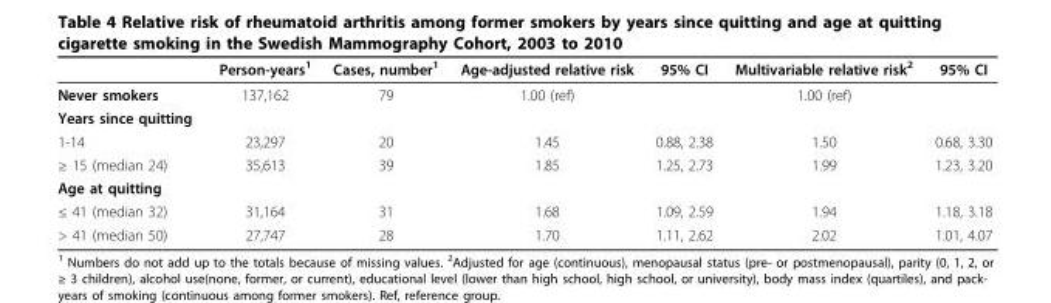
<table><thead><tr><td></td><td>Person-years<sup>1</sup></td><td>Cases, number<sup>1</sup></td><td>Age-adjusted relative risk</td><td>95% CI</td><td>Multivariable relative risk<sup>2</sup></td><td>95% CI</td></tr></thead><tbody><tr><td>Never smokers</td><td>137,162</td><td>79</td><td>1.00 (ref)</td><td></td><td>1.00 (ref)</td><td></td></tr><tr><td colspan="7">Years since quitting</td></tr><tr><td>1-14</td><td>23,297</td><td>20</td><td>1.45</td><td>0.88, 2.38</td><td>1.50</td><td>0.68, 3.30</td></tr><tr><td>≥ 15 (median 24)</td><td>35,613</td><td>39</td><td>1.85</td><td>1.25, 2.73</td><td>1.99</td><td>1.23, 3.20</td></tr><tr><td colspan="7">Age at quitting</td></tr><tr><td>≤ 41 (median 32)</td><td>31,164</td><td>31</td><td>1.68</td><td>1.09, 2.59</td><td>1.94</td><td>1.18, 3.18</td></tr><tr><td>&gt; 41 (median 50)</td><td>27,747</td><td>28</td><td>1.70</td><td>1.11, 2.62</td><td>2.02</td><td>1.01, 4.07</td></tr></tbody></table>